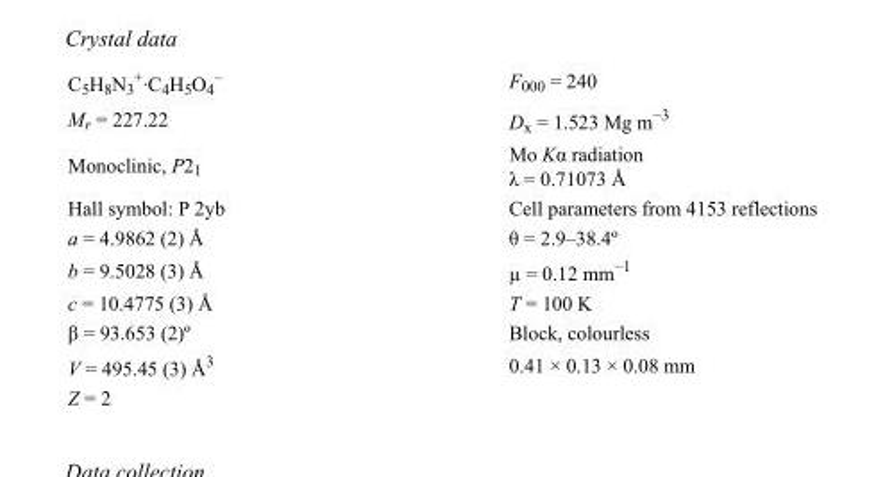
<table><tbody><tr><td>C<sub>5</sub>H<sub>8</sub>N<sub>3</sub> <sup>+</sup>·C<sub>4</sub>H<sub>5</sub>O<sub>4</sub> <sup>–</sup></td><td>F000 = 240</td></tr><tr><td>M<sub>r</sub> = 227.22</td><td>D<sub>x</sub> = 1.523 Mg m<sup>−3</sup></td></tr><tr><td>Monoclinic, P2<sub>1</sub></td><td>Mo Kα radiation λ = 0.71073 Å</td></tr><tr><td>Hall symbol: P 2yb</td><td>Cell parameters from 4153 reflections</td></tr><tr><td>a = 4.9862 (2) Å</td><td>θ = 2.9–38.4º</td></tr><tr><td>b = 9.5028 (3) Å</td><td>µ = 0.12 mm<sup>−1</sup></td></tr><tr><td>c = 10.4775 (3) Å</td><td>T = 100 K</td></tr><tr><td>β = 93.653 (2)º</td><td>Block, colourless</td></tr><tr><td>V = 495.45 (3) Å<sup>3</sup></td><td>0.41 × 0.13 × 0.08 mm</td></tr><tr><td>Z = 2</td><td></td></tr></tbody></table>